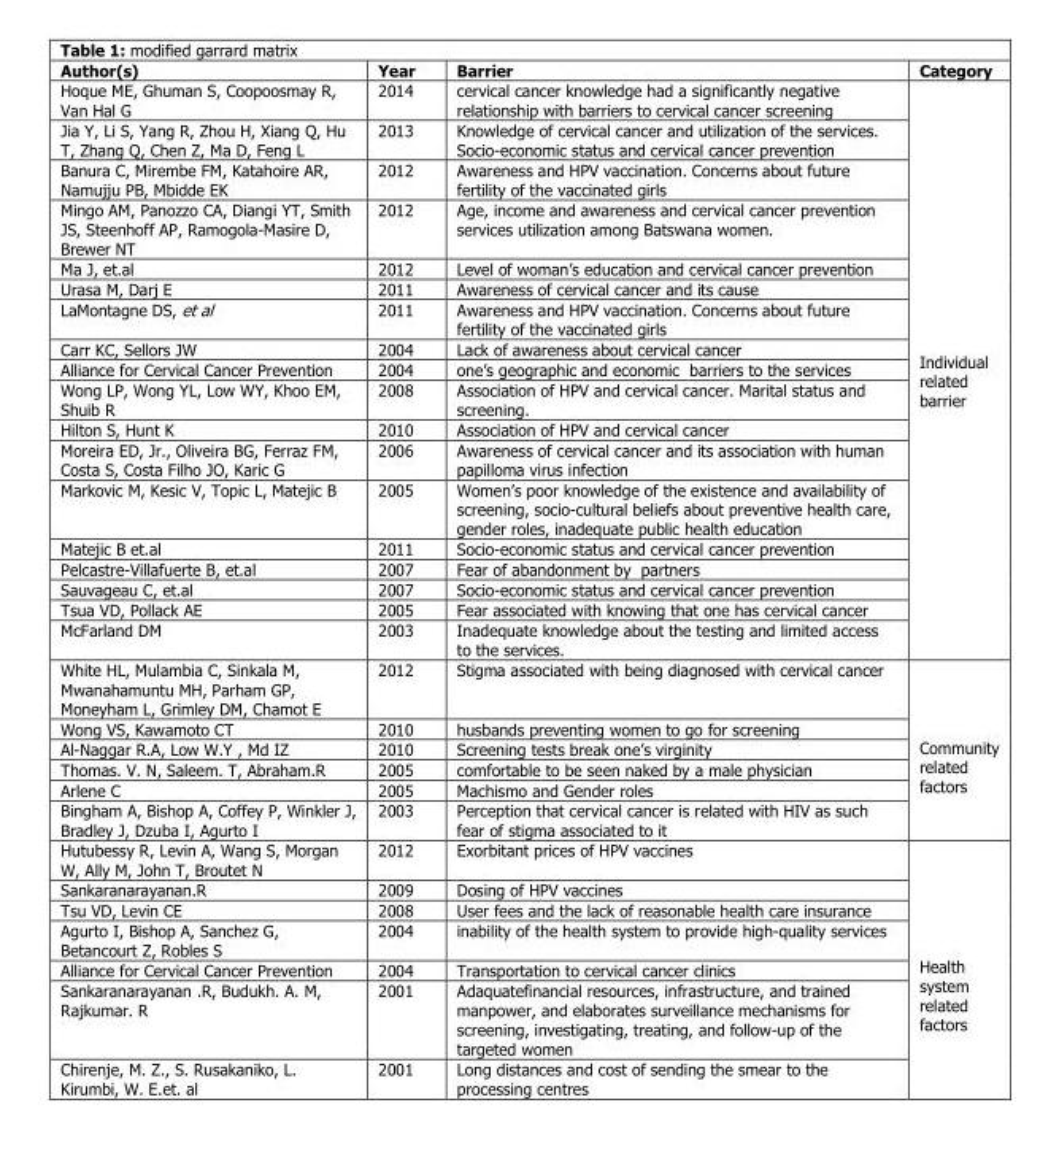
<table><thead><tr><td>Author(s)</td><td>Year</td><td>Barrier</td><td>Category</td></tr></thead><tbody><tr><td>Hoque ME, Ghuman S, Coopoosmay R, Van Hal G</td><td>2014</td><td>cervical cancer knowledge had a significantly negative relationship with barriers to cervical cancer screening</td><td rowspan="18">Individual related barrier</td></tr><tr><td>Jia Y, Li S, Yang R, Zhou H, Xiang Q, Hu T, Zhang Q, Chen Z, Ma D, Feng L</td><td>2013</td><td>Knowledge of cervical cancer and utilization of the services. Socio-economic status and cervical cancer prevention</td></tr><tr><td>Banura C, Mirembe FM, Katahoire AR, Namujju PB, Mbidde EK</td><td>2012</td><td>Awareness and HPV vaccination. Concerns about future fertility of the vaccinated girls</td></tr><tr><td>Mingo AM, Panozzo CA, Diangi YT, Smith JS, Steenhoff AP, Ramogola-Masire D, Brewer NT</td><td>2012</td><td>Age, income and awareness and cervical cancer prevention services utilization among Batswana women.</td></tr><tr><td>Ma J, et.al</td><td>2012</td><td>Level of woman’s education and cervical cancer prevention</td></tr><tr><td>Urasa M, Darj E</td><td>2011</td><td>Awareness of cervical cancer and its cause</td></tr><tr><td>LaMontagne DS, et al</td><td>2011</td><td>Awareness and HPV vaccination. Concerns about future fertility of the vaccinated girls</td></tr><tr><td>Carr KC, Sellors JW</td><td>2004</td><td>Lack of awareness about cervical cancer</td></tr><tr><td>Alliance for Cervical Cancer Prevention</td><td>2004</td><td>one’s geographic and economic barriers to the services</td></tr><tr><td>Wong LP, Wong YL, Low WY, Khoo EM, Shuib R</td><td>2008</td><td>Association of HPV and cervical cancer. Marital status and screening.</td></tr><tr><td>Hilton S, Hunt K</td><td>2010</td><td>Association of HPV and cervical cancer</td></tr><tr><td>Moreira ED, Jr., Oliveira BG, Ferraz FM, Costa S, Costa Filho JO, Karic G</td><td>2006</td><td>Awareness of cervical cancer and its association with human papilloma virus infection</td></tr><tr><td>Markovic M, Kesic V, Topic L, Matejic B</td><td>2005</td><td>Women’s poor knowledge of the existence and availability of screening, socio-cultural beliefs about preventive health care, gender roles, inadequate public health education</td></tr><tr><td>Matejic B et.al</td><td>2011</td><td>Socio-economic status and cervical cancer prevention</td></tr><tr><td>Pelcastre-Villafuerte B, et.al</td><td>2007</td><td>Fear of abandonment by partners</td></tr><tr><td>Sauvageau C, et.al</td><td>2007</td><td>Socio-economic status and cervical cancer prevention</td></tr><tr><td>Tsua VD, Pollack AE</td><td>2005</td><td>Fear associated with knowing that one has cervical cancer</td></tr><tr><td>McFarland DM</td><td>2003</td><td>Inadequate knowledge about the testing and limited access to the services.</td></tr><tr><td>White HL, Mulambia C, Sinkala M, Mwanahamuntu MH, Parham GP, Moneyham L, Grimley DM, Chamot E</td><td>2012</td><td>Stigma associated with being diagnosed with cervical cancer</td><td rowspan="6">Community related factors</td></tr><tr><td>Wong VS, Kawamoto CT</td><td>2010</td><td>husbands preventing women to go for screening</td></tr><tr><td>Al-Naggar R.A, Low W.Y , Md IZ</td><td>2010</td><td>Screening tests break one’s virginity</td></tr><tr><td>Thomas. V. N, Saleem. T, Abraham.R</td><td>2005</td><td>comfortable to be seen naked by a male physician</td></tr><tr><td>Arlene C</td><td>2005</td><td>Machismo and Gender roles</td></tr><tr><td>Bingham A, Bishop A, Coffey P, Winkler J, Bradley J, Dzuba I, Agurto I</td><td>2003</td><td>Perception that cervical cancer is related with HIV as such fear of stigma associated to it</td></tr><tr><td>Hutubessy R, Levin A, Wang S, Morgan W, Ally M, John T, Broutet N</td><td>2012</td><td>Exorbitant prices of HPV vaccines</td><td rowspan="7">Health system related factors</td></tr><tr><td>Sankaranarayanan.R</td><td>2009</td><td>Dosing of HPV vaccines</td></tr><tr><td>Tsu VD, Levin CE</td><td>2008</td><td>User fees and the lack of reasonable health care insurance</td></tr><tr><td>Agurto I, Bishop A, Sanchez G, Betancourt Z, Robles S</td><td>2004</td><td>inability of the health system to provide high-quality services</td></tr><tr><td>Alliance for Cervical Cancer Prevention</td><td>2004</td><td>Transportation to cervical cancer clinics</td></tr><tr><td>Sankaranarayanan .R, Budukh. A. M, Rajkumar. R</td><td>2001</td><td>Adaquatefinancial resources, infrastructure, and trained manpower, and elaborates surveillance mechanisms for screening, investigating, treating, and follow-up of the targeted women</td></tr><tr><td>Chirenje, M. Z., S. Rusakaniko, L. Kirumbi, W. E.et. al</td><td>2001</td><td>Long distances and cost of sending the smear to the processing centres</td></tr></tbody></table>